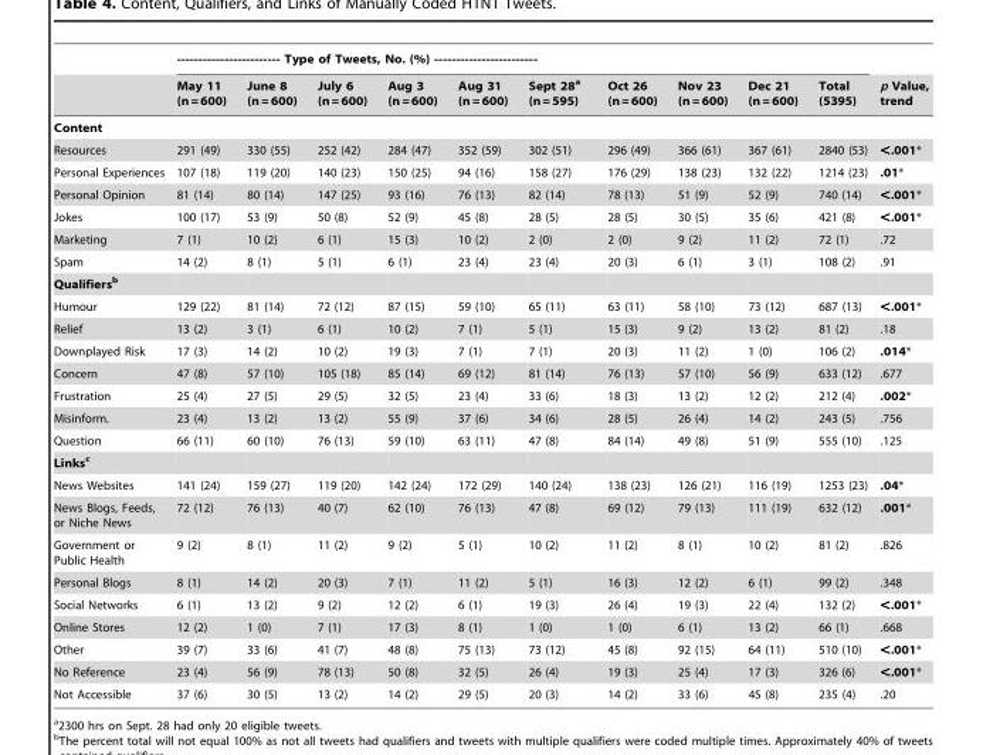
<table><thead><tr><td rowspan="2"></td><td colspan="10">------------------------ Type of Tweets, No. (%) ------------------------</td><td rowspan="2">p Value, trend</td></tr><tr><td>May 11 (n = 600)</td><td>June 8 (n = 600)</td><td>July 6 (n = 600)</td><td>Aug 3 (n = 600)</td><td>Aug 31 (n = 600)</td><td>Sept 28<sup>a</sup> (n = 595)</td><td>Oct 26 (n = 600)</td><td>Nov 23 (n = 600)</td><td>Dec 21 (n = 600)</td><td>Total (5395)</td></tr></thead><tbody><tr><td colspan="12">Content</td></tr><tr><td>Resources</td><td>291 (49)</td><td>330 (55)</td><td>252 (42)</td><td>284 (47)</td><td>352 (59)</td><td>302 (51)</td><td>296 (49)</td><td>366 (61)</td><td>367 (61)</td><td>2840 (53)</td><td>&lt;.001*</td></tr><tr><td>Personal Experiences</td><td>107 (18)</td><td>119 (20)</td><td>140 (23)</td><td>150 (25)</td><td>94 (16)</td><td>158 (27)</td><td>176 (29)</td><td>138 (23)</td><td>132 (22)</td><td>1214 (23)</td><td>.01*</td></tr><tr><td>Personal Opinion</td><td>81 (14)</td><td>80 (14)</td><td>147 (25)</td><td>93 (16)</td><td>76 (13)</td><td>82 (14)</td><td>78 (13)</td><td>51 (9)</td><td>52 (9)</td><td>740 (14)</td><td>&lt;.001*</td></tr><tr><td>Jokes</td><td>100 (17)</td><td>53 (9)</td><td>50 (8)</td><td>52 (9)</td><td>45 (8)</td><td>28 (5)</td><td>28 (5)</td><td>30 (5)</td><td>35 (6)</td><td>421 (8)</td><td>&lt;.001*</td></tr><tr><td>Marketing</td><td>7 (1)</td><td>10 (2)</td><td>6 (1)</td><td>15 (3)</td><td>10 (2)</td><td>2 (0)</td><td>2 (0)</td><td>9 (2)</td><td>11 (2)</td><td>72 (1)</td><td>.72</td></tr><tr><td>Spam</td><td>14 (2)</td><td>8 (1)</td><td>5 (1)</td><td>6 (1)</td><td>23 (4)</td><td>23 (4)</td><td>20 (3)</td><td>6 (1)</td><td>3 (1)</td><td>108 (2)</td><td>.91</td></tr><tr><td colspan="12">Qualifiersb</td></tr><tr><td>Humour</td><td>129 (22)</td><td>81 (14)</td><td>72 (12)</td><td>87 (15)</td><td>59 (10)</td><td>65 (11)</td><td>63 (11)</td><td>58 (10)</td><td>73 (12)</td><td>687 (13)</td><td>&lt;.001*</td></tr><tr><td>Relief</td><td>13 (2)</td><td>3 (1)</td><td>6 (1)</td><td>10 (2)</td><td>7 (1)</td><td>5 (1)</td><td>15 (3)</td><td>9 (2)</td><td>13 (2)</td><td>81 (2)</td><td>.18</td></tr><tr><td>Downplayed Risk</td><td>17 (3)</td><td>14 (2)</td><td>10 (2)</td><td>19 (3)</td><td>7 (1)</td><td>7 (1)</td><td>20 (3)</td><td>11 (2)</td><td>1 (0)</td><td>106 (2)</td><td>.014*</td></tr><tr><td>Concern</td><td>47 (8)</td><td>57 (10)</td><td>105 (18)</td><td>85 (14)</td><td>69 (12)</td><td>81 (14)</td><td>76 (13)</td><td>57 (10)</td><td>56 (9)</td><td>633 (12)</td><td>.677</td></tr><tr><td>Frustration</td><td>25 (4)</td><td>27 (5)</td><td>29 (5)</td><td>32 (5)</td><td>23 (4)</td><td>33 (6)</td><td>18 (3)</td><td>13 (2)</td><td>12 (2)</td><td>212 (4)</td><td>.002*</td></tr><tr><td>Misinform.</td><td>23 (4)</td><td>13 (2)</td><td>13 (2)</td><td>55 (9)</td><td>37 (6)</td><td>34 (6)</td><td>28 (5)</td><td>26 (4)</td><td>14 (2)</td><td>243 (5)</td><td>.756</td></tr><tr><td>Question</td><td>66 (11)</td><td>60 (10)</td><td>76 (13)</td><td>59 (10)</td><td>63 (11)</td><td>47 (8)</td><td>84 (14)</td><td>49 (8)</td><td>51 (9)</td><td>555 (10)</td><td>.125</td></tr><tr><td colspan="12">Linksc</td></tr><tr><td>News Websites</td><td>141 (24)</td><td>159 (27)</td><td>119 (20)</td><td>142 (24)</td><td>172 (29)</td><td>140 (24)</td><td>138 (23)</td><td>126 (21)</td><td>116 (19)</td><td>1253 (23)</td><td>.04*</td></tr><tr><td>News Blogs, Feeds, or Niche News</td><td>72 (12)</td><td>76 (13)</td><td>40 (7)</td><td>62 (10)</td><td>76 (13)</td><td>47 (8)</td><td>69 (12)</td><td>79 (13)</td><td>111 (19)</td><td>632 (12)</td><td>.001*</td></tr><tr><td>Government or Public Health</td><td>9 (2)</td><td>8 (1)</td><td>11 (2)</td><td>9 (2)</td><td>5 (1)</td><td>10 (2)</td><td>11 (2)</td><td>8 (1)</td><td>10 (2)</td><td>81 (2)</td><td>.826</td></tr><tr><td>Personal Blogs</td><td>8 (1)</td><td>14 (2)</td><td>20 (3)</td><td>7 (1)</td><td>11 (2)</td><td>5 (1)</td><td>16 (3)</td><td>12 (2)</td><td>6 (1)</td><td>99 (2)</td><td>.348</td></tr><tr><td>Social Networks</td><td>6 (1)</td><td>13 (2)</td><td>9 (2)</td><td>12 (2)</td><td>6 (1)</td><td>19 (3)</td><td>26 (4)</td><td>19 (3)</td><td>22 (4)</td><td>132 (2)</td><td>&lt;.001*</td></tr><tr><td>Online Stores</td><td>12 (2)</td><td>1 (0)</td><td>7 (1)</td><td>17 (3)</td><td>8 (1)</td><td>1 (0)</td><td>1 (0)</td><td>6 (1)</td><td>13 (2)</td><td>66 (1)</td><td>.668</td></tr><tr><td>Other</td><td>39 (7)</td><td>33 (6)</td><td>41 (7)</td><td>48 (8)</td><td>75 (13)</td><td>73 (12)</td><td>45 (8)</td><td>92 (15)</td><td>64 (11)</td><td>510 (10)</td><td>&lt;.001*</td></tr><tr><td>No Reference</td><td>23 (4)</td><td>56 (9)</td><td>78 (13)</td><td>50 (8)</td><td>32 (5)</td><td>26 (4)</td><td>19 (3)</td><td>25 (4)</td><td>17 (3)</td><td>326 (6)</td><td>&lt;.001*</td></tr><tr><td>Not Accessible</td><td>37 (6)</td><td>30 (5)</td><td>13 (2)</td><td>14 (2)</td><td>29 (5)</td><td>20 (3)</td><td>14 (2)</td><td>33 (6)</td><td>45 (8)</td><td>235 (4)</td><td>.20</td></tr></tbody></table>